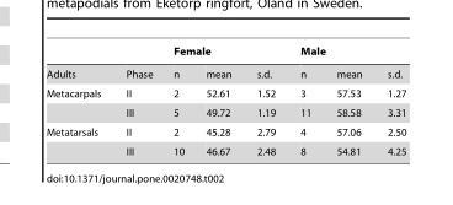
<table><thead><tr><td rowspan="2">Adults</td><td rowspan="2">Phase</td><td colspan="3">Female</td><td colspan="3">Male</td></tr><tr><td>n</td><td>mean</td><td>s.d.</td><td>n</td><td>mean</td><td>s.d.</td></tr></thead><tbody><tr><td rowspan="2">Metacarpals</td><td>II</td><td>2</td><td>52.61</td><td>1.52</td><td>3</td><td>57.53</td><td>1.27</td></tr><tr><td>III</td><td>5</td><td>49.72</td><td>1.19</td><td>11</td><td>58.58</td><td>3.31</td></tr><tr><td rowspan="2">Metatarsals</td><td>II</td><td>2</td><td>45.28</td><td>2.79</td><td>4</td><td>57.06</td><td>2.50</td></tr><tr><td>III</td><td>10</td><td>46.67</td><td>2.48</td><td>8</td><td>54.81</td><td>4.25</td></tr></tbody></table>